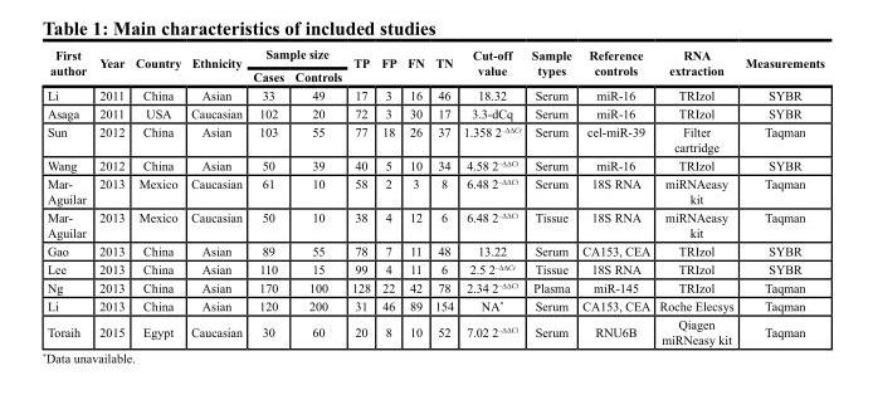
<table><thead><tr><td rowspan="2">First author</td><td rowspan="2">Year</td><td rowspan="2">Country</td><td rowspan="2">Ethnicity</td><td colspan="2">sample size</td><td rowspan="2">TP</td><td rowspan="2">FP</td><td rowspan="2">FN</td><td rowspan="2">TN</td><td rowspan="2">Cut-off value</td><td rowspan="2">sample types</td><td rowspan="2">Reference controls</td><td rowspan="2">RNA extraction</td><td rowspan="2">Measurements</td></tr><tr><td>Cases</td><td>Controls</td></tr></thead><tbody><tr><td>Li</td><td>2011</td><td>China</td><td>Asian</td><td>33</td><td>49</td><td>17</td><td>3</td><td>16</td><td>46</td><td>18.32</td><td>Serum</td><td>miR-16</td><td>TRIzol</td><td>SYBR</td></tr><tr><td>Asaga</td><td>2011</td><td>USA</td><td>Caucasian</td><td>102</td><td>20</td><td>72</td><td>3</td><td>30</td><td>17</td><td>3.3-dCq</td><td>Serum</td><td>miR-16</td><td>TRIzol</td><td>SYBR</td></tr><tr><td>Sun</td><td>2012</td><td>China</td><td>Asian</td><td>103</td><td>55</td><td>77</td><td>18</td><td>26</td><td>37</td><td>1.358 2–∆∆Ct</td><td>Serum</td><td>cel-miR-39</td><td>Filter cartridge</td><td>Taqman</td></tr><tr><td>Wang</td><td>2012</td><td>China</td><td>Asian</td><td>50</td><td>39</td><td>40</td><td>5</td><td>10</td><td>34</td><td>4.58 2–∆∆Ct</td><td>Serum</td><td>miR-16</td><td>TRIzol</td><td>SYBR</td></tr><tr><td>Mar- Aguilar</td><td>2013</td><td>Mexico</td><td>Caucasian</td><td>61</td><td>10</td><td>58</td><td>2</td><td>3</td><td>8</td><td>6.48 2–∆∆Ct</td><td>Serum</td><td>18S RNA</td><td>miRNAeasy kit</td><td>Taqman</td></tr><tr><td>Mar- Aguilar</td><td>2013</td><td>Mexico</td><td>Caucasian</td><td>50</td><td>10</td><td>38</td><td>4</td><td>12</td><td>6</td><td>6.48 2–∆∆Ct</td><td>Tissue</td><td>18S RNA</td><td>miRNAeasy kit</td><td>Taqman</td></tr><tr><td>Gao</td><td>2013</td><td>China</td><td>Asian</td><td>89</td><td>55</td><td>78</td><td>7</td><td>11</td><td>48</td><td>13.22</td><td>Serum</td><td>CA153, CEA</td><td>TRIzol</td><td>SYBR</td></tr><tr><td>Lee</td><td>2013</td><td>China</td><td>Asian</td><td>110</td><td>15</td><td>99</td><td>4</td><td>11</td><td>6</td><td>2.5 2–∆∆Ct</td><td>Tissue</td><td>18S RNA</td><td>TRIzol</td><td>SYBR</td></tr><tr><td>Ng</td><td>2013</td><td>China</td><td>Asian</td><td>170</td><td>100</td><td>128</td><td>22</td><td>42</td><td>78</td><td>2.34 2–∆∆Ct</td><td>Plasma</td><td>miR-145</td><td>TRIzol</td><td>Taqman</td></tr><tr><td>Li</td><td>2013</td><td>China</td><td>Asian</td><td>120</td><td>200</td><td>31</td><td>46</td><td>89</td><td>154</td><td>NA*</td><td>Serum</td><td>CA153, CEA</td><td>Roche Elecsys</td><td>Taqman</td></tr><tr><td>Toraih</td><td>2015</td><td>Egypt</td><td>Caucasian</td><td>30</td><td>60</td><td>20</td><td>8</td><td>10</td><td>52</td><td>7.02 2–∆∆Ct</td><td>Serum</td><td>RNU6B</td><td>Qiagen miRNeasy kit</td><td>Taqman</td></tr></tbody></table>